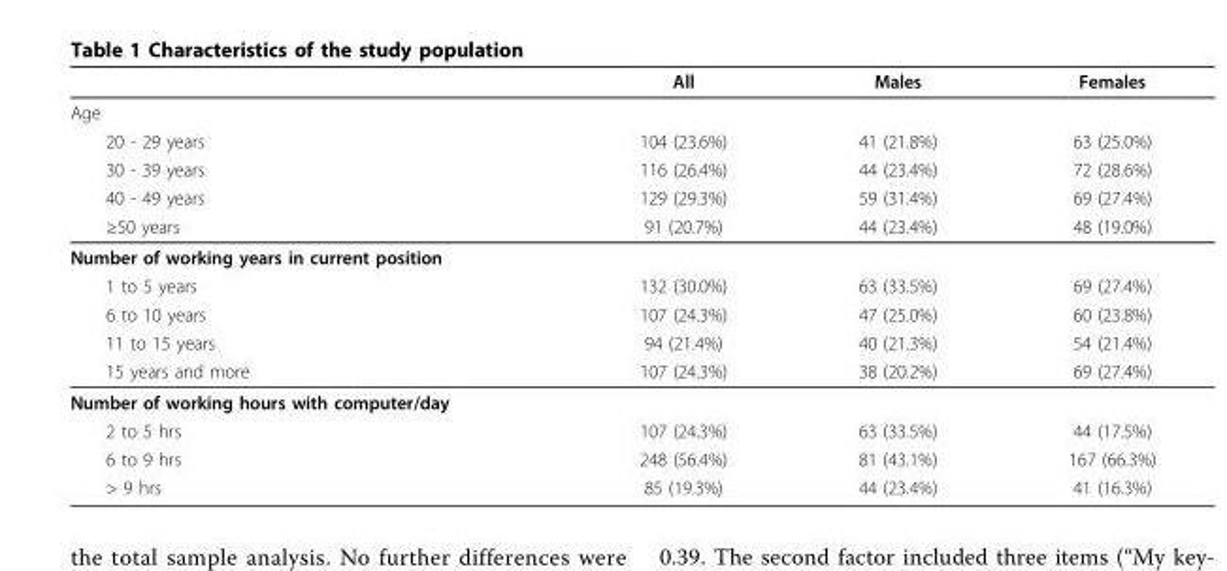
<table><thead><tr><td></td><td>All</td><td>Males</td><td>Females</td></tr></thead><tbody><tr><td colspan="4">Age</td></tr><tr><td>20 - 29 years</td><td>104 (23.6%)</td><td>41 (21.8%)</td><td>63 (25.0%)</td></tr><tr><td>30 - 39 years</td><td>116 (26.4%)</td><td>44 (23.4%)</td><td>72 (28.6%)</td></tr><tr><td>40 - 49 years</td><td>129 (29.3%)</td><td>59 (31.4%)</td><td>69 (27.4%)</td></tr><tr><td>≥50 years</td><td>91 (20.7%)</td><td>44 (23.4%)</td><td>48 (19.0%)</td></tr><tr><td colspan="4">Number of working years in current position</td></tr><tr><td>1 to 5 years</td><td>132 (30.0%)</td><td>63 (33.5%)</td><td>69 (27.4%)</td></tr><tr><td>6 to 10 years</td><td>107 (24.3%)</td><td>47 (25.0%)</td><td>60 (23.8%)</td></tr><tr><td>11 to 15 years</td><td>94 (21.4%)</td><td>40 (21.3%)</td><td>54 (21.4%)</td></tr><tr><td>15 years and more</td><td>107 (24.3%)</td><td>38 (20.2%)</td><td>69 (27.4%)</td></tr><tr><td colspan="4">Number of working hours with computer/day</td></tr><tr><td>2 to 5 hrs</td><td>107 (24.3%)</td><td>63 (33.5%)</td><td>44 (17.5%)</td></tr><tr><td>6 to 9 hrs</td><td>248 (56.4%)</td><td>81 (43.1%)</td><td>167 (66.3%)</td></tr><tr><td>&gt; 9 hrs</td><td>85 (19.3%)</td><td>44 (23.4%)</td><td>41 (16.3%)</td></tr></tbody></table>